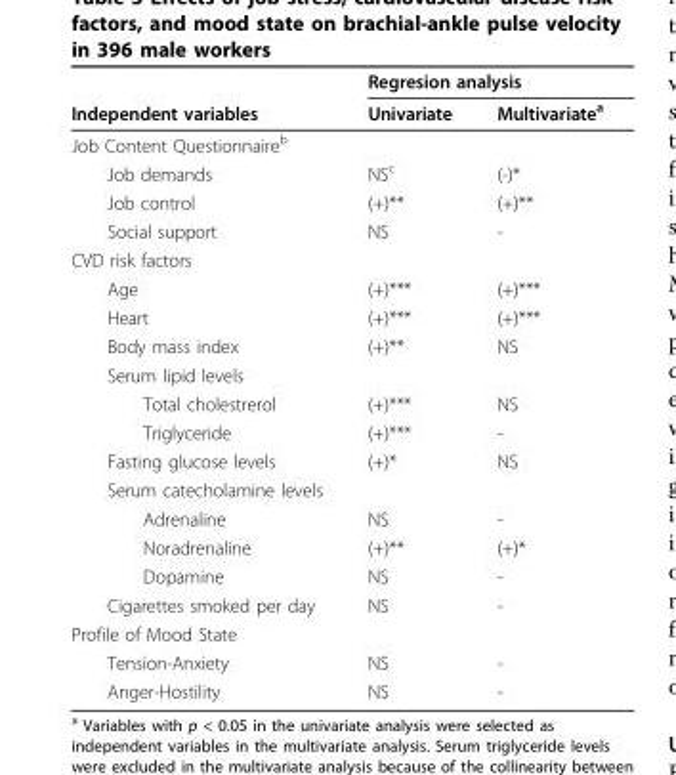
<table><thead><tr><td rowspan="2">Independent variables</td><td colspan="2">Regresion analysis</td></tr><tr><td>Univariate</td><td>Multivariate<sup>a</sup></td></tr></thead><tbody><tr><td colspan="3">Job Content Questionnaire<sup>b</sup></td></tr><tr><td>Job demands</td><td>NS<sup>c</sup></td><td>(-)*</td></tr><tr><td>Job control</td><td>(+)**</td><td>(+)**</td></tr><tr><td>Social support</td><td>NS</td><td>-</td></tr><tr><td colspan="3">CVD risk factors</td></tr><tr><td>Age</td><td>(+)***</td><td>(+)***</td></tr><tr><td>Heart</td><td>(+)***</td><td>(+)***</td></tr><tr><td>Body mass index</td><td>(+)**</td><td>NS</td></tr><tr><td colspan="3">Serum lipid levels</td></tr><tr><td>Total cholestrerol</td><td>(+)***</td><td>NS</td></tr><tr><td>Triglyceride</td><td>(+)***</td><td>-</td></tr><tr><td>Fasting glucose levels</td><td>(+)*</td><td>NS</td></tr><tr><td colspan="3">Serum catecholamine levels</td></tr><tr><td>Adrenaline</td><td>NS</td><td>-</td></tr><tr><td>Noradrenaline</td><td>(+)**</td><td>(+)*</td></tr><tr><td>Dopamine</td><td>NS</td><td>-</td></tr><tr><td>Cigarettes smoked per day</td><td>NS</td><td>-</td></tr><tr><td colspan="3">Profile of Mood State</td></tr><tr><td>Tension-Anxiety</td><td>NS</td><td>-</td></tr><tr><td>Anger-Hostility</td><td>NS</td><td>-</td></tr></tbody></table>